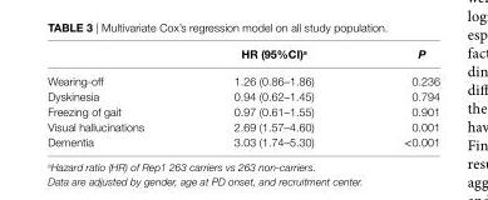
<table><thead><tr><td></td><td>hr (95%ci)<sup>a</sup></td><td>P</td></tr></thead><tbody><tr><td>Wearing-off</td><td>1.26 (0.86–1.86)</td><td>0.236</td></tr><tr><td>Dyskinesia</td><td>0.94 (0.62–1.45)</td><td>0.794</td></tr><tr><td>Freezing of gait</td><td>0.97 (0.61–1.55)</td><td>0.901</td></tr><tr><td>Visual hallucinations</td><td>2.69 (1.57–4.60)</td><td>0.001</td></tr><tr><td>Dementia</td><td>3.03 (1.74–5.30)</td><td>&lt;0.001</td></tr></tbody></table>